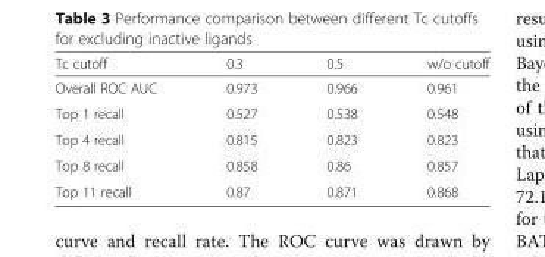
<table><thead><tr><td>Tc cutoff</td><td>0.3</td><td>0.5</td><td>w/o cutoff</td></tr></thead><tbody><tr><td>Overall ROC AUC</td><td>0.973</td><td>0.966</td><td>0.961</td></tr><tr><td>Top 1 recall</td><td>0.527</td><td>0.538</td><td>0.548</td></tr><tr><td>Top 4 recall</td><td>0.815</td><td>0.823</td><td>0.823</td></tr><tr><td>Top 8 recall</td><td>0.858</td><td>0.86</td><td>0.857</td></tr><tr><td>Top 11 recall</td><td>0.87</td><td>0.871</td><td>0.868</td></tr></tbody></table>